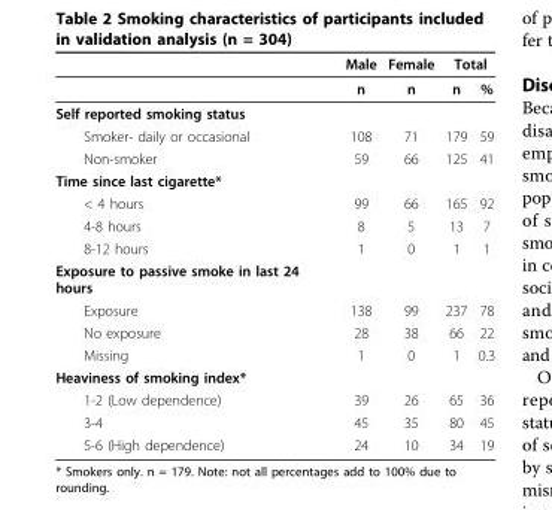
<table><thead><tr><td rowspan="2"></td><td rowspan="2">Male n</td><td rowspan="2">Female n</td><td colspan="2">Total</td></tr><tr><td>n</td><td>%</td></tr></thead><tbody><tr><td colspan="5">Self reported smoking status</td></tr><tr><td>Smoker- daily or occasional</td><td>108</td><td>71</td><td>179</td><td>59</td></tr><tr><td>Non-smoker</td><td>59</td><td>66</td><td>125</td><td>41</td></tr><tr><td colspan="5">Time since last cigarette*</td></tr><tr><td>&lt; 4 hours</td><td>99</td><td>66</td><td>165</td><td>92</td></tr><tr><td>4-8 hours</td><td>8</td><td>5</td><td>13</td><td>7</td></tr><tr><td>8-12 hours</td><td>1</td><td>0</td><td>1</td><td>1</td></tr><tr><td colspan="5">Exposure to passive smoke in last 24 hours</td></tr><tr><td>Exposure</td><td>138</td><td>99</td><td>237</td><td>78</td></tr><tr><td>No exposure</td><td>28</td><td>38</td><td>66</td><td>22</td></tr><tr><td>Missing</td><td>1</td><td>0</td><td>1</td><td>0.3</td></tr><tr><td colspan="5">Heaviness of smoking index*</td></tr><tr><td>1-2 (Low dependence)</td><td>39</td><td>26</td><td>65</td><td>36</td></tr><tr><td>3-4</td><td>45</td><td>35</td><td>80</td><td>45</td></tr><tr><td>5-6 (High dependence)</td><td>24</td><td>10</td><td>34</td><td>19</td></tr></tbody></table>